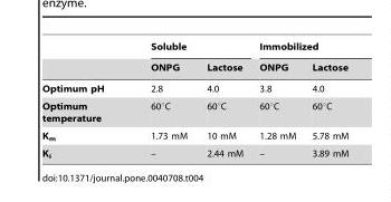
<table><thead><tr><td rowspan="2"></td><td colspan="2">Soluble</td><td colspan="2">Immobilized</td></tr><tr><td>ONPG</td><td>Lactose</td><td>ONPG</td><td>Lactose</td></tr></thead><tbody><tr><td>Optimum pH</td><td>2.8</td><td>4.0</td><td>3.8</td><td>4.0</td></tr><tr><td>Optimum temperature</td><td>60°C</td><td>60°C</td><td>60°C</td><td>60°C</td></tr><tr><td>K<sub>m</sub></td><td>1.73 mM</td><td>10 mM</td><td>1.28 mM</td><td>5.78 mM</td></tr><tr><td>K<sub>i</sub></td><td>–</td><td>2.44 mM</td><td>–</td><td>3.89 mM</td></tr></tbody></table>